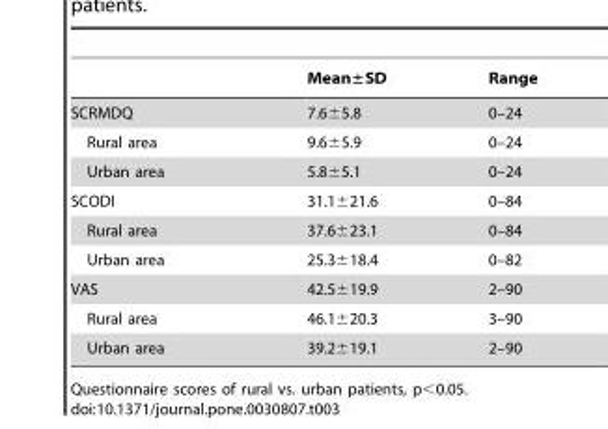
<table><thead><tr><td></td><td>Mean±SD</td><td>Range</td></tr></thead><tbody><tr><td>SCRMDQ</td><td>7.6±5.8</td><td>0–24</td></tr><tr><td>Rural area</td><td>9.6±5.9</td><td>0–24</td></tr><tr><td>Urban area</td><td>5.8±5.1</td><td>0–24</td></tr><tr><td>SCODI</td><td>31.1±21.6</td><td>0–84</td></tr><tr><td>Rural area</td><td>37.6±23.1</td><td>0–84</td></tr><tr><td>Urban area</td><td>25.3±18.4</td><td>0–82</td></tr><tr><td>VAS</td><td>42.5±19.9</td><td>2–90</td></tr><tr><td>Rural area</td><td>46.1±20.3</td><td>3–90</td></tr><tr><td>Urban area</td><td>39.2±19.1</td><td>2–90</td></tr></tbody></table>